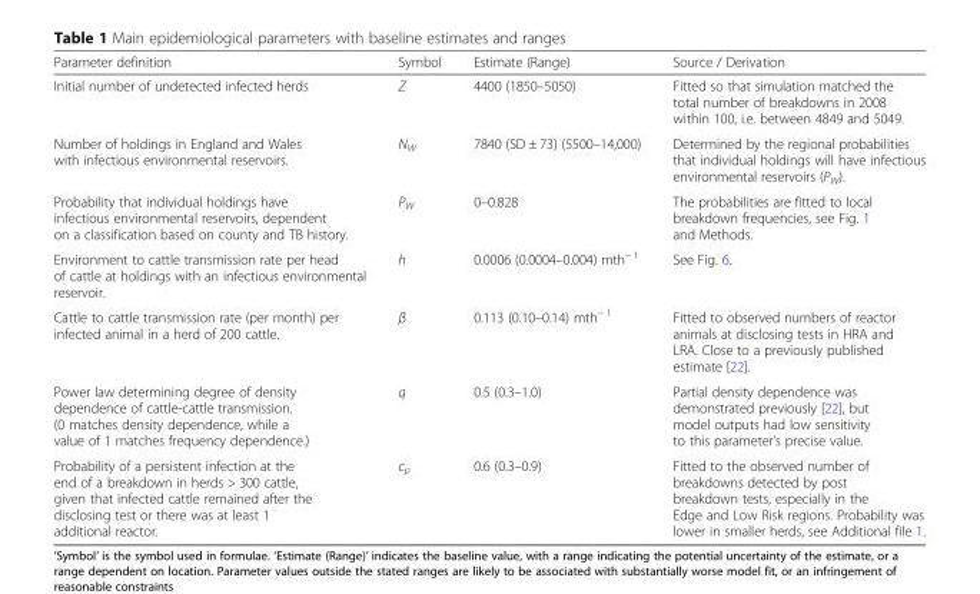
<table><thead><tr><td>Parameter definition</td><td>Symbol</td><td>Estimate (Range)</td><td>Source / Derivation</td></tr></thead><tbody><tr><td>Initial number of undetected infected herds</td><td>Z</td><td>4400 (1850–5050)</td><td>Fitted so that simulation matched the total number of breakdowns in 2008 within 100, i.e. between 4849 and 5049.</td></tr><tr><td>Number of holdings in England and Wales with infectious environmental reservoirs.</td><td>N<sub>W</sub></td><td>7840 (SD ± 73) (5500–14,000)</td><td>Determined by the regional probabilities that individual holdings will have infectious environmental reservoirs (P<sub>W</sub>).</td></tr><tr><td>Probability that individual holdings have infectious environmental reservoirs, dependent on a classification based on county and TB history.</td><td>P<sub>W</sub></td><td>0–0.828</td><td>The probabilities are fitted to local breakdown frequencies, see Fig. 1 and Methods.</td></tr><tr><td>Environment to cattle transmission rate per head of cattle at holdings with an infectious environmental reservoir.</td><td>h</td><td>0.0006 (0.0004–0.004) mth<sup>− 1</sup></td><td>See Fig. 6.</td></tr><tr><td>Cattle to cattle transmission rate (per month) per infected animal in a herd of 200 cattle.</td><td>β</td><td>0.113 (0.10–0.14) mth<sup>− 1</sup></td><td>Fitted to observed numbers of reactor animals at disclosing tests in HRA and LRA. Close to a previously published estimate [22].</td></tr><tr><td>Power law determining degree of density dependence of cattle-cattle transmission. (0 matches density dependence, while a value of 1 matches frequency dependence.)</td><td>q</td><td>0.5 (0.3–1.0)</td><td>Partial density dependence was demonstrated previously [22], but model outputs had low sensitivity to this parameter’s precise value.</td></tr><tr><td>Probability of a persistent infection at the end of a breakdown in herds &gt; 300 cattle, given that infected cattle remained after the disclosing test or there was at least 1 additional reactor.</td><td>c<sub>p</sub></td><td>0.6 (0.3–0.9)</td><td>Fitted to the observed number of breakdowns detected by post breakdown tests, especially in the Edge and Low Risk regions. Probability was lower in smaller herds, see Additional file 1.</td></tr></tbody></table>